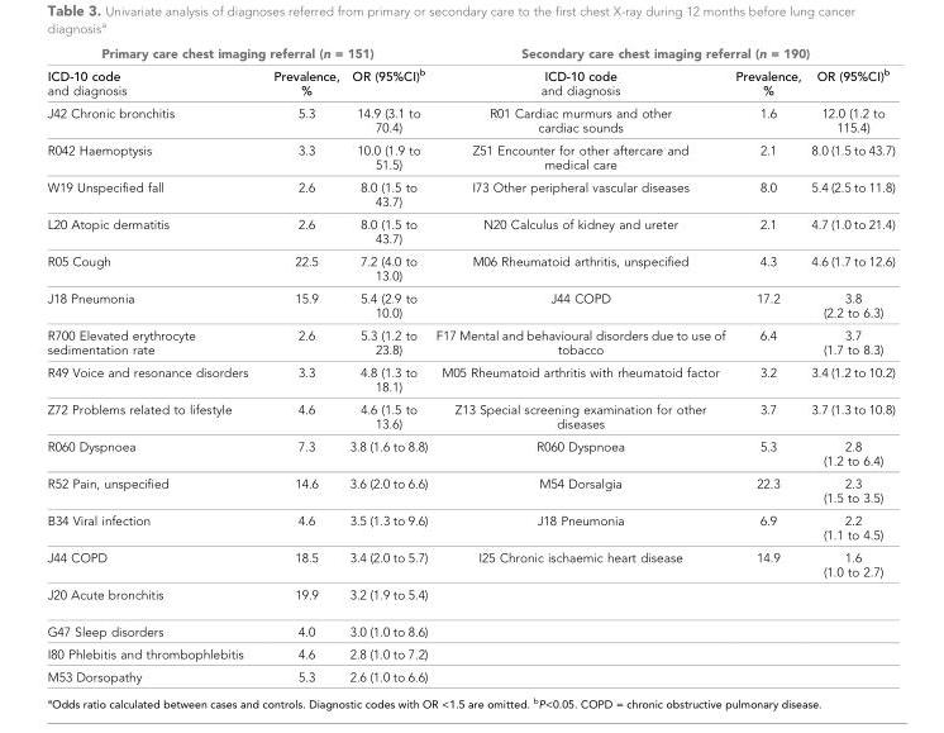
<table><thead><tr><td colspan="3">Primary care chest imaging referral (n = 151)</td><td colspan="3">Secondary care chest imaging referral (n = 190)</td></tr><tr><td>ICD-10 code and diagnosis</td><td>Prevalence, %</td><td>OR (95%CI)<sup>b</sup></td><td>ICD-10 code and diagnosis</td><td>Prevalence, %</td><td>OR (95%CI)<sup>b</sup></td></tr></thead><tbody><tr><td>J42 Chronic bronchitis</td><td>5.3</td><td>14.9 (3.1 to 70.4)</td><td>R01 Cardiac murmurs and other cardiac sounds</td><td>1.6</td><td>12.0 (1.2 to 115.4)</td></tr><tr><td>R042 Haemoptysis</td><td>3.3</td><td>10.0 (1.9 to 51.5)</td><td>Z51 Encounter for other aftercare and medical care</td><td>2.1</td><td>8.0 (1.5 to 43.7)</td></tr><tr><td>W19 Unspecified fall</td><td>2.6</td><td>8.0 (1.5 to 43.7)</td><td>I73 Other peripheral vascular diseases</td><td>8.0</td><td>5.4 (2.5 to 11.8)</td></tr><tr><td>L20 Atopic dermatitis</td><td>2.6</td><td>8.0 (1.5 to 43.7)</td><td>N20 Calculus of kidney and ureter</td><td>2.1</td><td>4.7 (1.0 to 21.4)</td></tr><tr><td>R05 Cough</td><td>22.5</td><td>7.2 (4.0 to 13.0)</td><td>M06 Rheumatoid arthritis, unspecified</td><td>4.3</td><td>4.6 (1.7 to 12.6)</td></tr><tr><td>J18 Pneumonia</td><td>15.9</td><td>5.4 (2.9 to 10.0)</td><td>J44 COPD</td><td>17.2</td><td>3.8 (2.2 to 6.3)</td></tr><tr><td>R700 Elevated erythrocyte sedimentation rate</td><td>2.6</td><td>5.3 (1.2 to 23.8)</td><td>F17 Mental and behavioural disorders due to use of tobacco</td><td>6.4</td><td>3.7 (1.7 to 8.3)</td></tr><tr><td>R49 Voice and resonance disorders</td><td>3.3</td><td>4.8 (1.3 to 18.1)</td><td>M05 Rheumatoid arthritis with rheumatoid factor</td><td>3.2</td><td>3.4 (1.2 to 10.2)</td></tr><tr><td>Z72 Problems related to lifestyle</td><td>4.6</td><td>4.6 (1.5 to 13.6)</td><td>Z13 Special screening examination for other diseases</td><td>3.7</td><td>3.7 (1.3 to 10.8)</td></tr><tr><td>R060 Dyspnoea</td><td>7.3</td><td>3.8 (1.6 to 8.8)</td><td>R060 Dyspnoea</td><td>5.3</td><td>2.8 (1.2 to 6.4)</td></tr><tr><td>R52 Pain, unspecified</td><td>14.6</td><td>3.6 (2.0 to 6.6)</td><td>M54 Dorsalgia</td><td>22.3</td><td>2.3 (1.5 to 3.5)</td></tr><tr><td>B34 Viral infection</td><td>4.6</td><td>3.5 (1.3 to 9.6)</td><td>J18 Pneumonia</td><td>6.9</td><td>2.2 (1.1 to 4.5)</td></tr><tr><td>J44 COPD</td><td>18.5</td><td>3.4 (2.0 to 5.7)</td><td>I25 Chronic ischaemic heart disease</td><td>14.9</td><td>1.6 (1.0 to 2.7)</td></tr><tr><td>J20 Acute bronchitis</td><td>19.9</td><td>3.2 (1.9 to 5.4)</td><td></td><td></td><td></td></tr><tr><td>G47 Sleep disorders</td><td>4.0</td><td>3.0 (1.0 to 8.6)</td><td></td><td></td><td></td></tr><tr><td>I80 Phlebitis and thrombophlebitis</td><td>4.6</td><td>2.8 (1.0 to 7.2)</td><td></td><td></td><td></td></tr><tr><td>M53 Dorsopathy</td><td>5.3</td><td>2.6 (1.0 to 6.6)</td><td></td><td></td><td></td></tr></tbody></table>